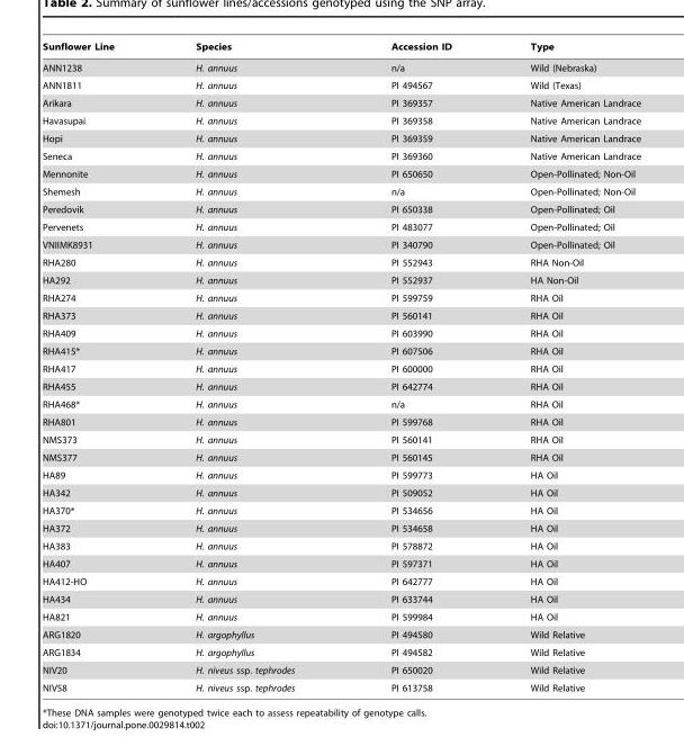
<table><thead><tr><td>Sunflower Line</td><td>Species</td><td>Accession ID</td><td>Type</td></tr></thead><tbody><tr><td>ANN1238</td><td>H. annuus</td><td>n/a</td><td>Wild (Nebraska)</td></tr><tr><td>ANN1811</td><td>H. annuus</td><td>PI 494567</td><td>Wild (Texas)</td></tr><tr><td>Arikara</td><td>H. annuus</td><td>PI 369357</td><td>Native American Landrace</td></tr><tr><td>Havasupai</td><td>H. annuus</td><td>PI 369358</td><td>Native American Landrace</td></tr><tr><td>Hopi</td><td>H. annuus</td><td>PI 369359</td><td>Native American Landrace</td></tr><tr><td>Seneca</td><td>H. annuus</td><td>PI 369360</td><td>Native American Landrace</td></tr><tr><td>Mennonite</td><td>H. annuus</td><td>PI 650650</td><td>Open-Pollinated; Non-Oil</td></tr><tr><td>Shemesh</td><td>H. annuus</td><td>n/a</td><td>Open-Pollinated; Non-Oil</td></tr><tr><td>Peredovik</td><td>H. annuus</td><td>PI 650338</td><td>Open-Pollinated; Oil</td></tr><tr><td>Pervenets</td><td>H. annuus</td><td>PI 483077</td><td>Open-Pollinated; Oil</td></tr><tr><td>VNIIMK8931</td><td>H. annuus</td><td>PI 340790</td><td>Open-Pollinated; Oil</td></tr><tr><td>RHA280</td><td>H. annuus</td><td>PI 552943</td><td>RHA Non-Oil</td></tr><tr><td>HA292</td><td>H. annuus</td><td>PI 552937</td><td>HA Non-Oil</td></tr><tr><td>RHA274</td><td>H. annuus</td><td>PI 599759</td><td>RHA Oil</td></tr><tr><td>RHA373</td><td>H. annuus</td><td>PI 560141</td><td>RHA Oil</td></tr><tr><td>RHA409</td><td>H. annuus</td><td>PI 603990</td><td>RHA Oil</td></tr><tr><td>RHA415*</td><td>H. annuus</td><td>PI 607506</td><td>RHA Oil</td></tr><tr><td>RHA417</td><td>H. annuus</td><td>PI 600000</td><td>RHA Oil</td></tr><tr><td>RHA455</td><td>H. annuus</td><td>PI 642774</td><td>RHA Oil</td></tr><tr><td>RHA468*</td><td>H. annuus</td><td>n/a</td><td>RHA Oil</td></tr><tr><td>RHA801</td><td>H. annuus</td><td>PI 599768</td><td>RHA Oil</td></tr><tr><td>NMS373</td><td>H. annuus</td><td>PI 560141</td><td>RHA Oil</td></tr><tr><td>NMS377</td><td>H. annuus</td><td>PI 560145</td><td>RHA Oil</td></tr><tr><td>HA89</td><td>H. annuus</td><td>PI 599773</td><td>HA Oil</td></tr><tr><td>HA342</td><td>H. annuus</td><td>PI 509052</td><td>HA Oil</td></tr><tr><td>HA370*</td><td>H. annuus</td><td>PI 534656</td><td>HA Oil</td></tr><tr><td>HA372</td><td>H. annuus</td><td>PI 534658</td><td>HA Oil</td></tr><tr><td>HA383</td><td>H. annuus</td><td>PI 578872</td><td>HA Oil</td></tr><tr><td>HA407</td><td>H. annuus</td><td>PI 597371</td><td>HA Oil</td></tr><tr><td>HA412-HO</td><td>H. annuus</td><td>PI 642777</td><td>HA Oil</td></tr><tr><td>HA434</td><td>H. annuus</td><td>PI 633744</td><td>HA Oil</td></tr><tr><td>HA821</td><td>H. annuus</td><td>PI 599984</td><td>HA Oil</td></tr><tr><td>ARG1820</td><td>H. argophyllus</td><td>PI 494580</td><td>Wild Relative</td></tr><tr><td>ARG1834</td><td>H. argophyllus</td><td>PI 494582</td><td>Wild Relative</td></tr><tr><td>NIV20</td><td>H. niveus ssp. tephrodes</td><td>PI 650020</td><td>Wild Relative</td></tr><tr><td>NIV58</td><td>H. niveus ssp. tephrodes</td><td>PI 613758</td><td>Wild Relative</td></tr></tbody></table>